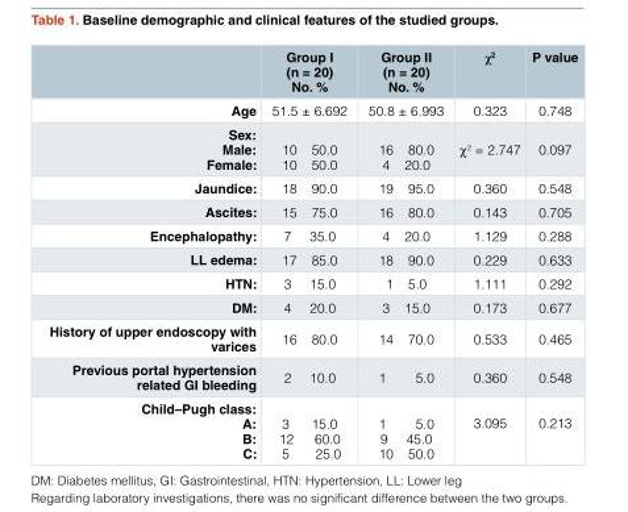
<table><thead><tr><td></td><td>Group I (n = 20) No. %</td><td>Group II (n = 20) No. %</td><td>χ<sup>2</sup></td><td>P value</td></tr></thead><tbody><tr><td>Age</td><td>51.5 ± 6.692</td><td>50.8 ± 6.993</td><td>0.323</td><td>0.748</td></tr><tr><td>Sex: Male: Female:</td><td>10 50.0 10 50.0</td><td>16 80.0 4 20.0</td><td>χ<sup>2</sup> = 2.747</td><td>0.097</td></tr><tr><td>Jaundice:</td><td>18 90.0</td><td>19 95.0</td><td>0.360</td><td>0.548</td></tr><tr><td>Ascites:</td><td>15 75.0</td><td>16 80.0</td><td>0.143</td><td>0.705</td></tr><tr><td>Encephalopathy:</td><td>7 35.0</td><td>4 20.0</td><td>1.129</td><td>0.288</td></tr><tr><td>LL edema:</td><td>17 85.0</td><td>18 90.0</td><td>0.229</td><td>0.633</td></tr><tr><td>HTN:</td><td>3 15.0</td><td>1 5.0</td><td>1.111</td><td>0.292</td></tr><tr><td>DM:</td><td>4 20.0</td><td>3 15.0</td><td>0.173</td><td>0.677</td></tr><tr><td>History of upper endoscopy with varices</td><td>16 80.0</td><td>14 70.0</td><td>0.533</td><td>0.465</td></tr><tr><td>Previous portal hypertension related GI bleeding</td><td>2 10.0</td><td>1 5.0</td><td>0.360</td><td>0.548</td></tr><tr><td>Child–Pugh class: A: B: C:</td><td>3 15.0 12 60.0 5 25.0</td><td>1 5.0 9 45.0 10 50.0</td><td>3.095</td><td>0.213</td></tr></tbody></table>